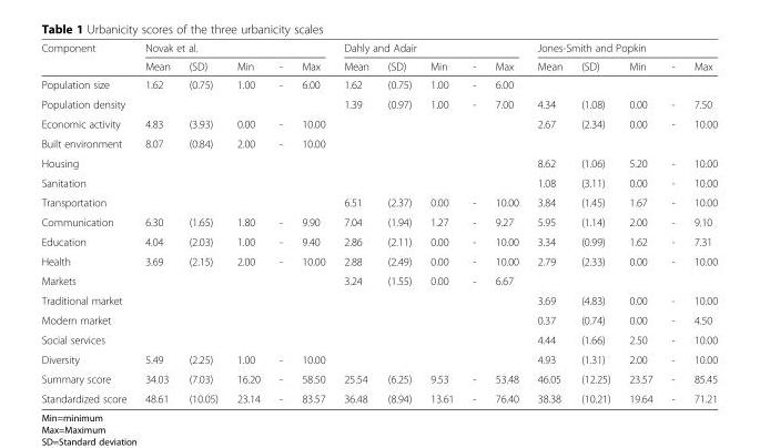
<table><thead><tr><td rowspan="2">Component</td><td colspan="5">Novak et al.</td><td colspan="5">Dahly and Adair</td><td colspan="5">Jones-Smith and Popkin</td></tr><tr><td>Mean</td><td>(SD)</td><td>Min</td><td>-</td><td>Max</td><td>Mean</td><td>(SD)</td><td>Min</td><td>-</td><td>Max</td><td>Mean</td><td>(SD)</td><td>Min</td><td>-</td><td>Max</td></tr></thead><tbody><tr><td>Population size</td><td>1.62</td><td>(0.75)</td><td>1.00</td><td>-</td><td>6.00</td><td>1.62</td><td>(0.75)</td><td>1.00</td><td>-</td><td>6.00</td><td></td><td></td><td></td><td></td><td></td></tr><tr><td>Population density</td><td></td><td></td><td></td><td></td><td></td><td>1.39</td><td>(0.97)</td><td>1.00</td><td>-</td><td>7.00</td><td>4.34</td><td>(1.08)</td><td>0.00</td><td>-</td><td>7.50</td></tr><tr><td>Economic activity</td><td>4.83</td><td>(3.93)</td><td>0.00</td><td>-</td><td>10.00</td><td></td><td></td><td></td><td></td><td></td><td>2.67</td><td>(2.34)</td><td>0.00</td><td>-</td><td>10.00</td></tr><tr><td>Built environment</td><td>8.07</td><td>(0.84)</td><td>2.00</td><td>-</td><td>10.00</td><td></td><td></td><td></td><td></td><td></td><td></td><td></td><td></td><td></td><td></td></tr><tr><td>Housing</td><td></td><td></td><td></td><td></td><td></td><td></td><td></td><td></td><td></td><td></td><td>8.62</td><td>(1.06)</td><td>5.20</td><td>-</td><td>10.00</td></tr><tr><td>Sanitation</td><td></td><td></td><td></td><td></td><td></td><td></td><td></td><td></td><td></td><td></td><td>1.08</td><td>(3.11)</td><td>0.00</td><td>-</td><td>10.00</td></tr><tr><td>Transportation</td><td></td><td></td><td></td><td></td><td></td><td>6.51</td><td>(2.37)</td><td>0.00</td><td>-</td><td>10.00</td><td>3.84</td><td>(1.45)</td><td>1.67</td><td>-</td><td>10.00</td></tr><tr><td>Communication</td><td>6.30</td><td>(1.65)</td><td>1.80</td><td>-</td><td>9.90</td><td>7.04</td><td>(1.94)</td><td>1.27</td><td>-</td><td>9.27</td><td>5.95</td><td>(1.14)</td><td>2.00</td><td>-</td><td>9.10</td></tr><tr><td>Education</td><td>4.04</td><td>(2.03)</td><td>1.00</td><td>-</td><td>9.40</td><td>2.86</td><td>(2.11)</td><td>0.00</td><td>-</td><td>10.00</td><td>3.34</td><td>(0.99)</td><td>1.62</td><td>-</td><td>7.31</td></tr><tr><td>Health</td><td>3.69</td><td>(2.15)</td><td>2.00</td><td>-</td><td>10.00</td><td>2.88</td><td>(2.49)</td><td>0.00</td><td>-</td><td>10.00</td><td>2.79</td><td>(2.33)</td><td>0.00</td><td>-</td><td>10.00</td></tr><tr><td>Markets</td><td></td><td></td><td></td><td></td><td></td><td>3.24</td><td>(1.55)</td><td>0.00</td><td>-</td><td>6.67</td><td></td><td></td><td></td><td></td><td></td></tr><tr><td>Traditional market</td><td></td><td></td><td></td><td></td><td></td><td></td><td></td><td></td><td></td><td></td><td>3.69</td><td>(4.83)</td><td>0.00</td><td>-</td><td>10.00</td></tr><tr><td>Modern market</td><td></td><td></td><td></td><td></td><td></td><td></td><td></td><td></td><td></td><td></td><td>0.37</td><td>(0.74)</td><td>0.00</td><td>-</td><td>4.50</td></tr><tr><td>Social services</td><td></td><td></td><td></td><td></td><td></td><td></td><td></td><td></td><td></td><td></td><td>4.44</td><td>(1.66)</td><td>2.50</td><td>-</td><td>10.00</td></tr><tr><td>Diversity</td><td>5.49</td><td>(2.25)</td><td>1.00</td><td>-</td><td>10.00</td><td></td><td></td><td></td><td></td><td></td><td>4.93</td><td>(1.31)</td><td>2.00</td><td>-</td><td>10.00</td></tr><tr><td>Summary score</td><td>34.03</td><td>(7.03)</td><td>16.20</td><td>-</td><td>58.50</td><td>25.54</td><td>(6.25)</td><td>9.53</td><td>-</td><td>53.48</td><td>46.05</td><td>(12.25)</td><td>23.57</td><td>-</td><td>85.45</td></tr><tr><td>Standardized score</td><td>48.61</td><td>(10.05)</td><td>23.14</td><td>-</td><td>83.57</td><td>36.48</td><td>(8.94)</td><td>13.61</td><td>-</td><td>76.40</td><td>38.38</td><td>(10.21)</td><td>19.64</td><td>-</td><td>71.21</td></tr></tbody></table>